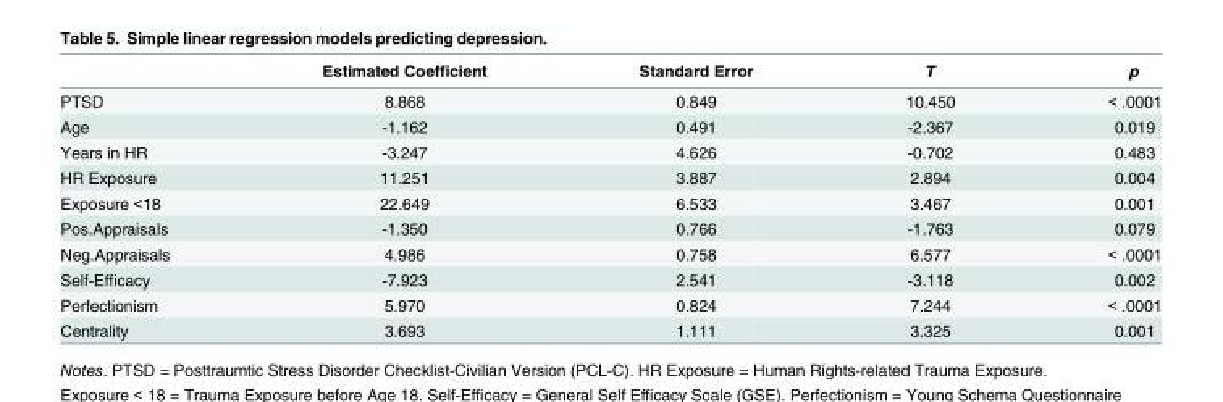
<table><thead><tr><td></td><td>Estimated Coefficient</td><td>Standard Error</td><td>T</td><td>p</td></tr></thead><tbody><tr><td>PTSD</td><td>8.868</td><td>0.849</td><td>10.450</td><td>&lt; .0001</td></tr><tr><td>Age</td><td>-1.162</td><td>0.491</td><td>-2.367</td><td>0.019</td></tr><tr><td>Years in HR</td><td>-3.247</td><td>4.626</td><td>-0.702</td><td>0.483</td></tr><tr><td>HR Exposure</td><td>11.251</td><td>3.887</td><td>2.894</td><td>0.004</td></tr><tr><td>Exposure &lt;18</td><td>22.649</td><td>6.533</td><td>3.467</td><td>0.001</td></tr><tr><td>Pos.Appraisals</td><td>-1.350</td><td>0.766</td><td>-1.763</td><td>0.079</td></tr><tr><td>Neg.Appraisals</td><td>4.986</td><td>0.758</td><td>6.577</td><td>&lt; .0001</td></tr><tr><td>Self-Efficacy</td><td>-7.923</td><td>2.541</td><td>-3.118</td><td>0.002</td></tr><tr><td>Perfectionism</td><td>5.970</td><td>0.824</td><td>7.244</td><td>&lt; .0001</td></tr><tr><td>Centrality</td><td>3.693</td><td>1.111</td><td>3.325</td><td>0.001</td></tr></tbody></table>